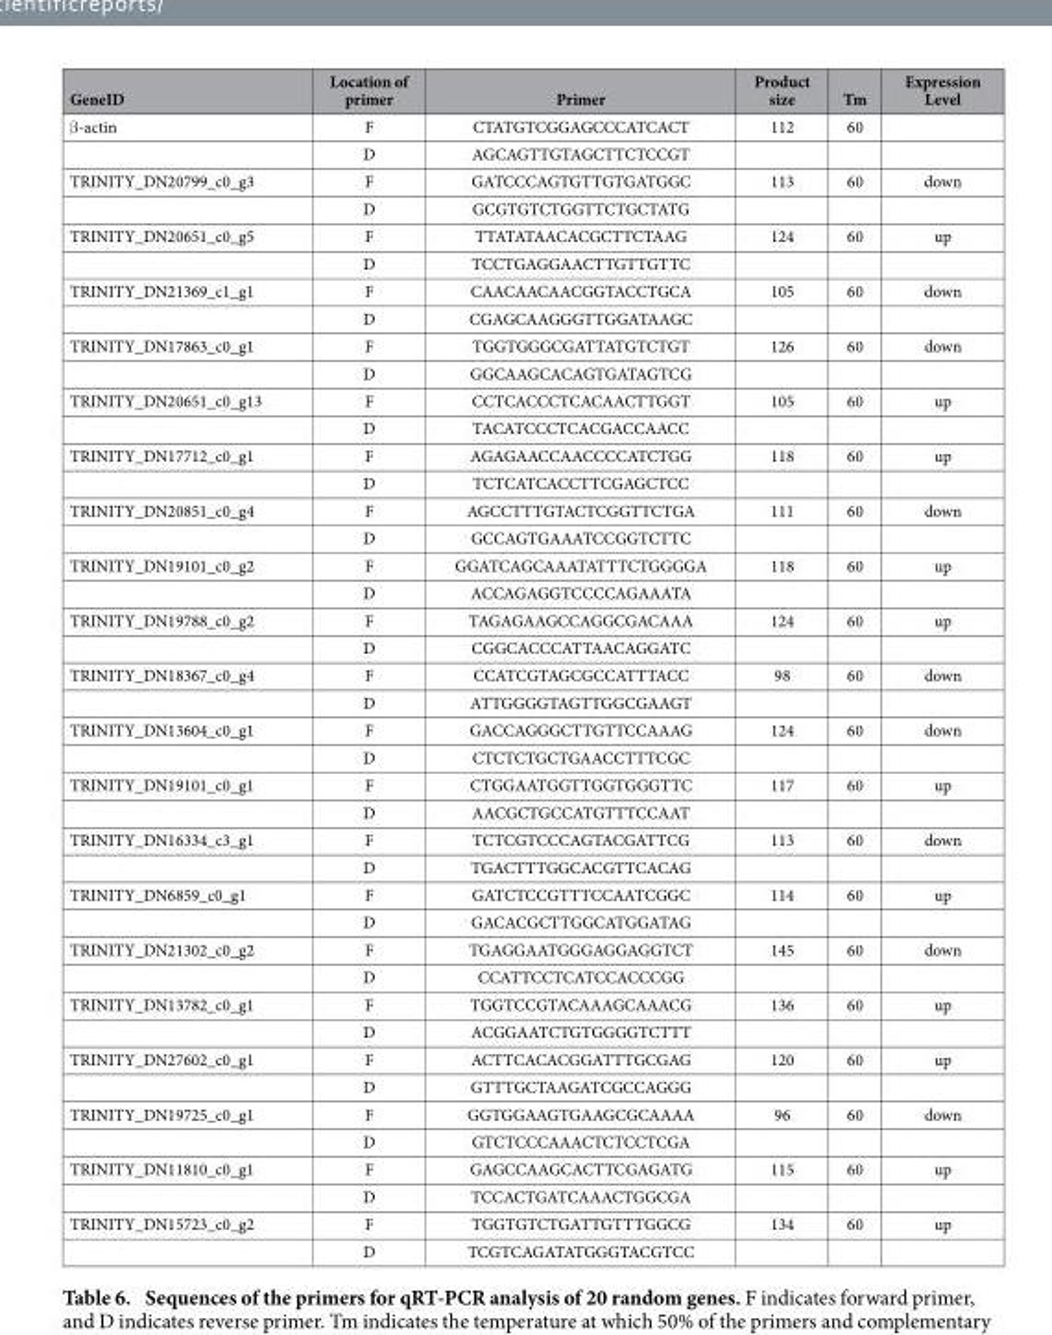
<table><thead><tr><td>GeneID</td><td>Location of primer</td><td>Primer</td><td>Product size</td><td>Tm</td><td>Expression Level</td></tr></thead><tbody><tr><td rowspan="2">β -actin</td><td>F</td><td>CTATGTCGGAGCCCATCACT</td><td>112</td><td>60</td><td></td></tr><tr><td>D</td><td>AGCAGTTGTAGCTTCTCCGT</td><td></td><td></td><td></td></tr><tr><td rowspan="2">TRINITY_DN20799_c0_g3</td><td>F</td><td>GATCCCAGTGTTGTGATGGC</td><td>113</td><td>60</td><td>down</td></tr><tr><td>D</td><td>GCGTGTCTGGTTCTGCTATG</td><td></td><td></td><td></td></tr><tr><td rowspan="2">TRINITY_DN20651_c0_g5</td><td>F</td><td>TTATATAACACGCTTCTAAG</td><td>124</td><td>60</td><td>up</td></tr><tr><td>D</td><td>TCCTGAGGAACTTGTTGTTC</td><td></td><td></td><td></td></tr><tr><td rowspan="2">TRINITY_DN21369_c1_g1</td><td>F</td><td>CAACAACAACGGTACCTGCA</td><td>105</td><td>60</td><td>down</td></tr><tr><td>D</td><td>CGAGCAAGGGTTGGATAAGC</td><td></td><td></td><td></td></tr><tr><td rowspan="2">TRINITY_DN17863_c0_g1</td><td>F</td><td>TGGTGGGCGATTATGTCTGT</td><td>126</td><td>60</td><td>down</td></tr><tr><td>D</td><td>GGCAAGCACAGTGATAGTCG</td><td></td><td></td><td></td></tr><tr><td rowspan="2">TRINITY_DN20651_c0_g13</td><td>F</td><td>CCTCACCCTCACAACTTGGT</td><td>105</td><td>60</td><td>up</td></tr><tr><td>D</td><td>TACATCCCTCACGACCAACC</td><td></td><td></td><td></td></tr><tr><td rowspan="2">TRINITY_DN17712_c0_g1</td><td>F</td><td>AGAGAACCAACCCCATCTGG</td><td>118</td><td>60</td><td>up</td></tr><tr><td>D</td><td>TCTCATCACCTTCGAGCTCC</td><td></td><td></td><td></td></tr><tr><td rowspan="2">TRINITY_DN20851_c0_g4</td><td>F</td><td>AGCCTTTGTACTCGGTTCTGA</td><td>111</td><td>60</td><td>down</td></tr><tr><td>D</td><td>GCCAGTGAAATCCGGTCTTC</td><td></td><td></td><td></td></tr><tr><td rowspan="2">TRINITY_DN19101_c0_g2</td><td>F</td><td>GGATCAGCAAATATTTCTGGGGA</td><td>118</td><td>60</td><td>up</td></tr><tr><td>D</td><td>ACCAGAGGTCCCCAGAAATA</td><td></td><td></td><td></td></tr><tr><td rowspan="2">TRINITY_DN19788_c0_g2</td><td>F</td><td>TAGAGAAGCCAGGCGACAAA</td><td>124</td><td>60</td><td>up</td></tr><tr><td>D</td><td>CGGCACCCATTAACAGGATC</td><td></td><td></td><td></td></tr><tr><td rowspan="2">TRINITY_DN18367_c0_g4</td><td>F</td><td>CCATCGTAGCGCCATTTACC</td><td>98</td><td>60</td><td>down</td></tr><tr><td>D</td><td>ATTGGGGTAGTTGGCGAAGT</td><td></td><td></td><td></td></tr><tr><td rowspan="2">TRINITY_DN13604_c0_g1</td><td>F</td><td>GACCAGGGCTTGTTCCAAAG</td><td>124</td><td>60</td><td>down</td></tr><tr><td>D</td><td>CTCTCTGCTGAACCTTTCGC</td><td></td><td></td><td></td></tr><tr><td rowspan="2">TRINITY_DN19101_c0_g1</td><td>F</td><td>CTGGAATGGTTGGTGGGTTC</td><td>117</td><td>60</td><td>up</td></tr><tr><td>D</td><td>AACGCTGCCATGTTTCCAAT</td><td></td><td></td><td></td></tr><tr><td rowspan="2">TRINITY_DN16334_c3_g1</td><td>F</td><td>TCTCGTCCCAGTACGATTCG</td><td>113</td><td>60</td><td>down</td></tr><tr><td>D</td><td>TGACTTTGGCACGTTCACAG</td><td></td><td></td><td></td></tr><tr><td rowspan="2">TRINITY_DN6859_c0_g1</td><td>F</td><td>GATCTCCGTTTCCAATCGGC</td><td>114</td><td>60</td><td>up</td></tr><tr><td>D</td><td>GACACGCTTGGCATGGATAG</td><td></td><td></td><td></td></tr><tr><td rowspan="2">TRINITY_DN21302_c0_g2</td><td>F</td><td>TGAGGAATGGGAGGAGGTCT</td><td>145</td><td>60</td><td>down</td></tr><tr><td>D</td><td>CCATTCCTCATCCACCCGG</td><td></td><td></td><td></td></tr><tr><td rowspan="2">TRINITY_DN13782_c0_g1</td><td>F</td><td>TGGTCCGTACAAAGCAAACG</td><td>136</td><td>60</td><td>up</td></tr><tr><td>D</td><td>ACGGAATCTGTGGGGTCTTT</td><td></td><td></td><td></td></tr><tr><td rowspan="2">TRINITY_DN27602_c0_g1</td><td>F</td><td>ACTTCACACGGATTTGCGAG</td><td>120</td><td>60</td><td>up</td></tr><tr><td>D</td><td>GTTTGCTAAGATCGCCAGGG</td><td></td><td></td><td></td></tr><tr><td rowspan="2">TRINITY_DN19725_c0_g1</td><td>F</td><td>GGTGGAAGTGAAGCGCAAAA</td><td>96</td><td>60</td><td>down</td></tr><tr><td>D</td><td>GTCTCCCAAACTCTCCTCGA</td><td></td><td></td><td></td></tr><tr><td rowspan="2">TRINITY_DN11810_c0_g1</td><td>F</td><td>GAGCCAAGCACTTCGAGATG</td><td>115</td><td>60</td><td>up</td></tr><tr><td>D</td><td>TCCACTGATCAAACTGGCGA</td><td></td><td></td><td></td></tr><tr><td rowspan="2">TRINITY_DN15723_c0_g2</td><td>F</td><td>TGGTGTCTGATTGTTTGGCG</td><td>134</td><td>60</td><td>up</td></tr><tr><td>D</td><td>TCGTCAGATATGGGTACGTCC</td><td></td><td></td><td></td></tr></tbody></table>